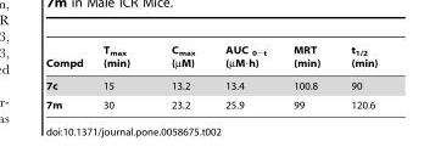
<table><thead><tr><td>Compd</td><td>T<sub>max</sub> (min)</td><td>C<sub>max</sub> (µM)</td><td>AUC <sub>0−t</sub> (µM·h)</td><td>MRT (min)</td><td>t<sub>1/2</sub> (min)</td></tr></thead><tbody><tr><td>7c</td><td>15</td><td>13.2</td><td>13.4</td><td>100.8</td><td>90</td></tr><tr><td>7m</td><td>30</td><td>23.2</td><td>25.9</td><td>99</td><td>120.6</td></tr></tbody></table>